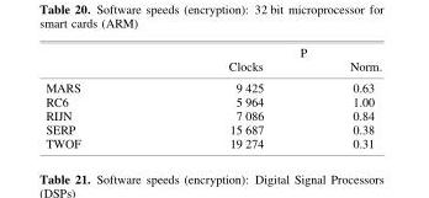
<table><thead><tr><td rowspan="2"></td><td colspan="2">P</td></tr><tr><td>Clocks</td><td>Norm.</td></tr></thead><tbody><tr><td>MARS</td><td>9 425</td><td>0.63</td></tr><tr><td>RC6</td><td>5 964</td><td>1.00</td></tr><tr><td>RIJN</td><td>7 086</td><td>0.84</td></tr><tr><td>SERP</td><td>15 687</td><td>0.38</td></tr><tr><td>TWOF</td><td>19 274</td><td>0.31</td></tr></tbody></table>